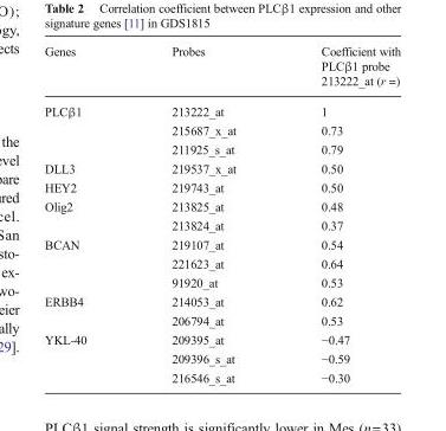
<table><thead><tr><td>Genes</td><td>Probes</td><td>Coefficient with PLCβ1 probe 213222_at (r =)</td></tr></thead><tbody><tr><td rowspan="3">PLCβ1</td><td>213222_at</td><td>1</td></tr><tr><td>215687_x_at</td><td>0.73</td></tr><tr><td>211925_s_at</td><td>0.79</td></tr><tr><td>DLL3</td><td>219537_x_at</td><td>0.50</td></tr><tr><td>HEY2</td><td>219743_at</td><td>0.50</td></tr><tr><td rowspan="2">Olig2</td><td>213825_at</td><td>0.48</td></tr><tr><td>213824_at</td><td>0.37</td></tr><tr><td rowspan="3">BCAN</td><td>219107_at</td><td>0.54</td></tr><tr><td>221623_at</td><td>0.64</td></tr><tr><td>91920_at</td><td>0.53</td></tr><tr><td rowspan="2">ERBB4</td><td>214053_at</td><td>0.62</td></tr><tr><td>206794_at</td><td>0.53</td></tr><tr><td rowspan="3">YKL-40</td><td>209395_at</td><td>−0.47</td></tr><tr><td>209396_s_at</td><td>−0.59</td></tr><tr><td>216546_s_at</td><td>−0.30</td></tr></tbody></table>